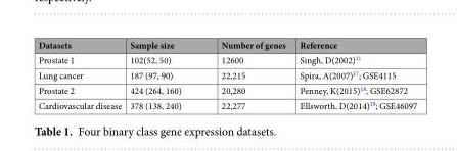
<table><thead><tr><td>Datasets</td><td>Sample size</td><td>Number of genes</td><td>Reference</td></tr></thead><tbody><tr><td>Prostate 1</td><td>102(52, 50)</td><td>12600</td><td>Singh, D(2002)<sup>11</sup></td></tr><tr><td>Lung cancer</td><td>187 (97, 90)</td><td>22,215</td><td>Spira, A(2007)<sup>17</sup>; GSE4115</td></tr><tr><td>Prostate 2</td><td>424 (264, 160)</td><td>20,280</td><td>Penney, K(2015)<sup>18</sup>; GSE62872</td></tr><tr><td>Cardiovascular disease</td><td>378 (138, 240)</td><td>22,277</td><td>Ellsworth, D(2014)<sup>19</sup>; GSE46097</td></tr></tbody></table>